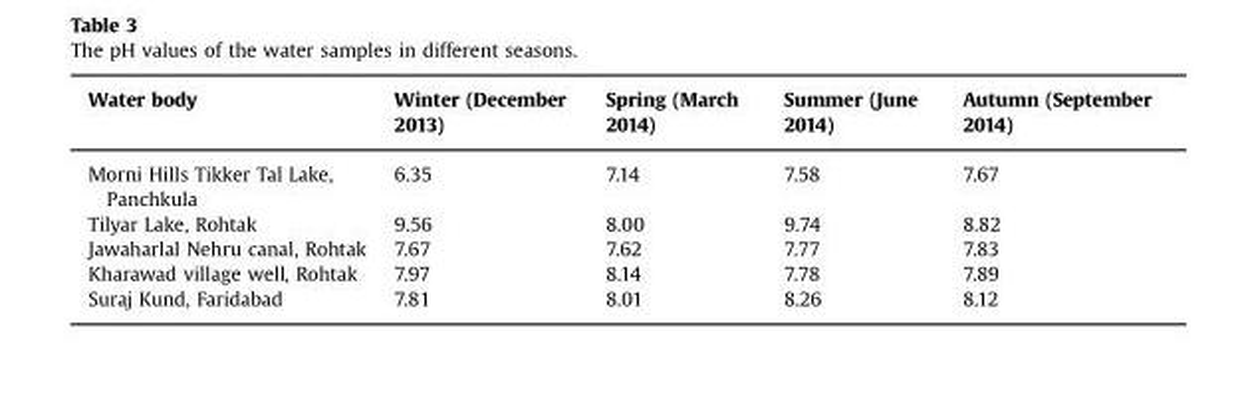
<table><thead><tr><td>Water body</td><td>Winter (December 2013)</td><td>Spring (March 2014)</td><td>Summer (June 2014)</td><td>Autumn (September 2014)</td></tr></thead><tbody><tr><td>Morni Hills Tikker Tal Lake, Panchkula</td><td>6.35</td><td>7.14</td><td>7.58</td><td>7.67</td></tr><tr><td>Tilyar Lake, Rohtak</td><td>9.56</td><td>8.00</td><td>9.74</td><td>8.82</td></tr><tr><td>Jawaharlal Nehru canal, Rohtak</td><td>7.67</td><td>7.62</td><td>7.77</td><td>7.83</td></tr><tr><td>Kharawad village well, Rohtak</td><td>7.97</td><td>8.14</td><td>7.78</td><td>7.89</td></tr><tr><td>Suraj Kund, Faridabad</td><td>7.81</td><td>8.01</td><td>8.26</td><td>8.12</td></tr></tbody></table>